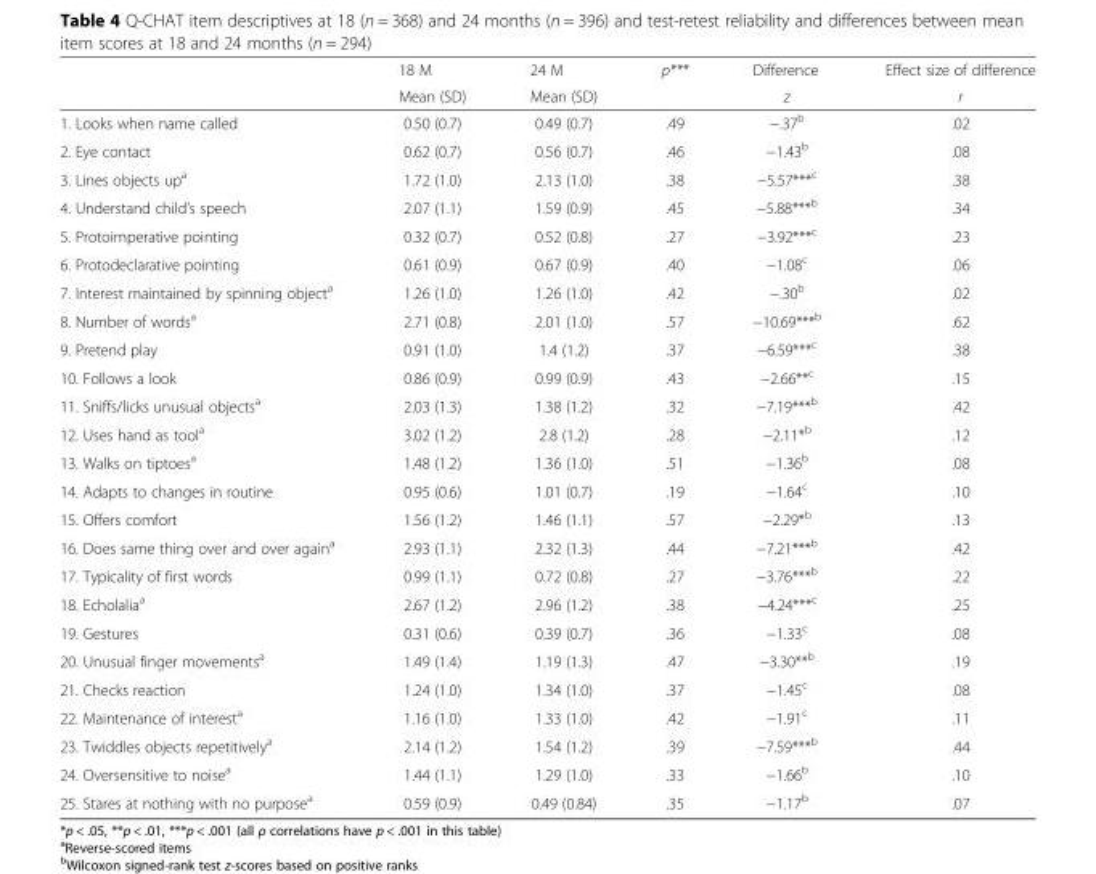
<table><thead><tr><td rowspan="2"></td><td rowspan="2">18 M Mean (SD)</td><td rowspan="2">24 M Mean (SD)</td><td rowspan="2">p***</td><td rowspan="2">Difference z</td><td rowspan="2">Effect size of difference r</td></tr><tr></tr></thead><tbody><tr><td>1. Looks when name called</td><td>0.50 (0.7)</td><td>0.49 (0.7)</td><td>.49</td><td>−.37<sup>b</sup></td><td>.02</td></tr><tr><td>2. Eye contact</td><td>0.62 (0.7)</td><td>0.56 (0.7)</td><td>.46</td><td>−1.43<sup>b</sup></td><td>.08</td></tr><tr><td>3. Lines objects up<sup>a</sup></td><td>1.72 (1.0)</td><td>2.13 (1.0)</td><td>.38</td><td>−5.57***<sup>c</sup></td><td>.38</td></tr><tr><td>4. Understand child’s speech</td><td>2.07 (1.1)</td><td>1.59 (0.9)</td><td>.45</td><td>−5.88***<sup>b</sup></td><td>.34</td></tr><tr><td>5. Protoimperative pointing</td><td>0.32 (0.7)</td><td>0.52 (0.8)</td><td>.27</td><td>−3.92***<sup>c</sup></td><td>.23</td></tr><tr><td>6. Protodeclarative pointing</td><td>0.61 (0.9)</td><td>0.67 (0.9)</td><td>.40</td><td>−1.08<sup>c</sup></td><td>.06</td></tr><tr><td>7. Interest maintained by spinning object<sup>a</sup></td><td>1.26 (1.0)</td><td>1.26 (1.0)</td><td>.42</td><td>−.30<sup>b</sup></td><td>.02</td></tr><tr><td>8. Number of words<sup>a</sup></td><td>2.71 (0.8)</td><td>2.01 (1.0)</td><td>.57</td><td>−10.69***<sup>b</sup></td><td>.62</td></tr><tr><td>9. Pretend play</td><td>0.91 (1.0)</td><td>1.4 (1.2)</td><td>.37</td><td>−6.59***<sup>c</sup></td><td>.38</td></tr><tr><td>10. Follows a look</td><td>0.86 (0.9)</td><td>0.99 (0.9)</td><td>.43</td><td>−2.66**<sup>c</sup></td><td>.15</td></tr><tr><td>11. Sniffs/licks unusual objects<sup>a</sup></td><td>2.03 (1.3)</td><td>1.38 (1.2)</td><td>.32</td><td>−7.19***<sup>b</sup></td><td>.42</td></tr><tr><td>12. Uses hand as tool<sup>a</sup></td><td>3.02 (1.2)</td><td>2.8 (1.2)</td><td>.28</td><td>−2.11*<sup>b</sup></td><td>.12</td></tr><tr><td>13. Walks on tiptoes<sup>a</sup></td><td>1.48 (1.2)</td><td>1.36 (1.0)</td><td>.51</td><td>−1.36<sup>b</sup></td><td>.08</td></tr><tr><td>14. Adapts to changes in routine</td><td>0.95 (0.6)</td><td>1.01 (0.7)</td><td>.19</td><td>−1.64<sup>c</sup></td><td>.10</td></tr><tr><td>15. Offers comfort</td><td>1.56 (1.2)</td><td>1.46 (1.1)</td><td>.57</td><td>−2.29*<sup>b</sup></td><td>.13</td></tr><tr><td>16. Does same thing over and over again<sup>a</sup></td><td>2.93 (1.1)</td><td>2.32 (1.3)</td><td>.44</td><td>−7.21***<sup>b</sup></td><td>.42</td></tr><tr><td>17. Typicality of first words</td><td>0.99 (1.1)</td><td>0.72 (0.8)</td><td>.27</td><td>−3.76***<sup>b</sup></td><td>.22</td></tr><tr><td>18. Echolalia<sup>a</sup></td><td>2.67 (1.2)</td><td>2.96 (1.2)</td><td>.38</td><td>−4.24***<sup>c</sup></td><td>.25</td></tr><tr><td>19. Gestures</td><td>0.31 (0.6)</td><td>0.39 (0.7)</td><td>.36</td><td>−1.33<sup>c</sup></td><td>.08</td></tr><tr><td>20. Unusual finger movements<sup>a</sup></td><td>1.49 (1.4)</td><td>1.19 (1.3)</td><td>.47</td><td>−3.30**<sup>b</sup></td><td>.19</td></tr><tr><td>21. Checks reaction</td><td>1.24 (1.0)</td><td>1.34 (1.0)</td><td>.37</td><td>−1.45<sup>c</sup></td><td>.08</td></tr><tr><td>22. Maintenance of interest<sup>a</sup></td><td>1.16 (1.0)</td><td>1.33 (1.0)</td><td>.42</td><td>−1.91<sup>c</sup></td><td>.11</td></tr><tr><td>23. Twiddles objects repetitively<sup>a</sup></td><td>2.14 (1.2)</td><td>1.54 (1.2)</td><td>.39</td><td>−7.59***<sup>b</sup></td><td>.44</td></tr><tr><td>24. Oversensitive to noise<sup>a</sup></td><td>1.44 (1.1)</td><td>1.29 (1.0)</td><td>.33</td><td>−1.66<sup>b</sup></td><td>.10</td></tr><tr><td>25. Stares at nothing with no purpose<sup>a</sup></td><td>0.59 (0.9)</td><td>0.49 (0.84)</td><td>.35</td><td>−1.17<sup>b</sup></td><td>.07</td></tr></tbody></table>